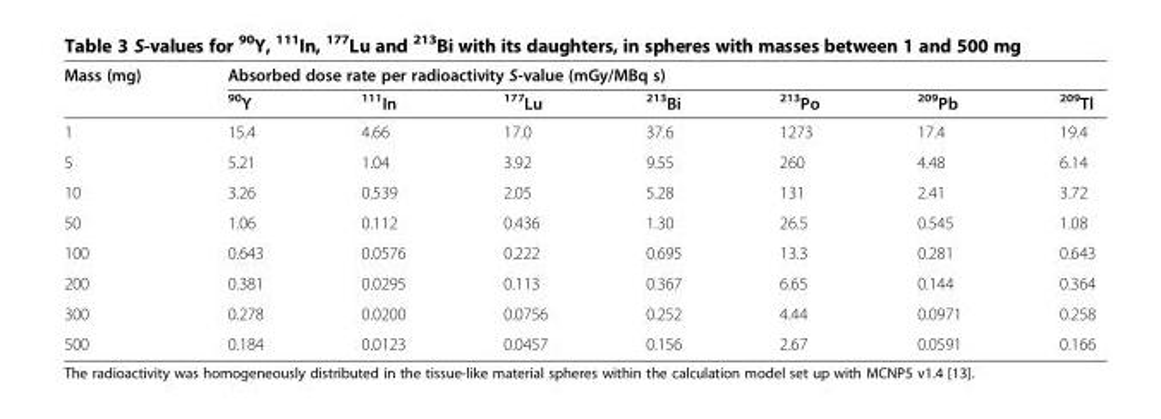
<table><thead><tr><td rowspan="2">Mass (mg)</td><td colspan="7">Absorbed dose rate per radioactivity S-value (mGy/MBq s)</td></tr><tr><td><sup>90</sup>Y</td><td><sup>111</sup>In</td><td><sup>177</sup>Lu</td><td><sup>213</sup>Bi</td><td><sup>213</sup>Po</td><td><sup>209</sup>Pb</td><td><sup>209</sup>Tl</td></tr></thead><tbody><tr><td>1</td><td>15.4</td><td>4.66</td><td>17.0</td><td>37.6</td><td>1273</td><td>17.4</td><td>19.4</td></tr><tr><td>5</td><td>5.21</td><td>1.04</td><td>3.92</td><td>9.55</td><td>260</td><td>4.48</td><td>6.14</td></tr><tr><td>10</td><td>3.26</td><td>0.539</td><td>2.05</td><td>5.28</td><td>131</td><td>2.41</td><td>3.72</td></tr><tr><td>50</td><td>1.06</td><td>0.112</td><td>0.436</td><td>1.30</td><td>26.5</td><td>0.545</td><td>1.08</td></tr><tr><td>100</td><td>0.643</td><td>0.0576</td><td>0.222</td><td>0.695</td><td>13.3</td><td>0.281</td><td>0.643</td></tr><tr><td>200</td><td>0.381</td><td>0.0295</td><td>0.113</td><td>0.367</td><td>6.65</td><td>0.144</td><td>0.364</td></tr><tr><td>300</td><td>0.278</td><td>0.0200</td><td>0.0756</td><td>0.252</td><td>4.44</td><td>0.0971</td><td>0.258</td></tr><tr><td>500</td><td>0.184</td><td>0.0123</td><td>0.0457</td><td>0.156</td><td>2.67</td><td>0.0591</td><td>0.166</td></tr></tbody></table>